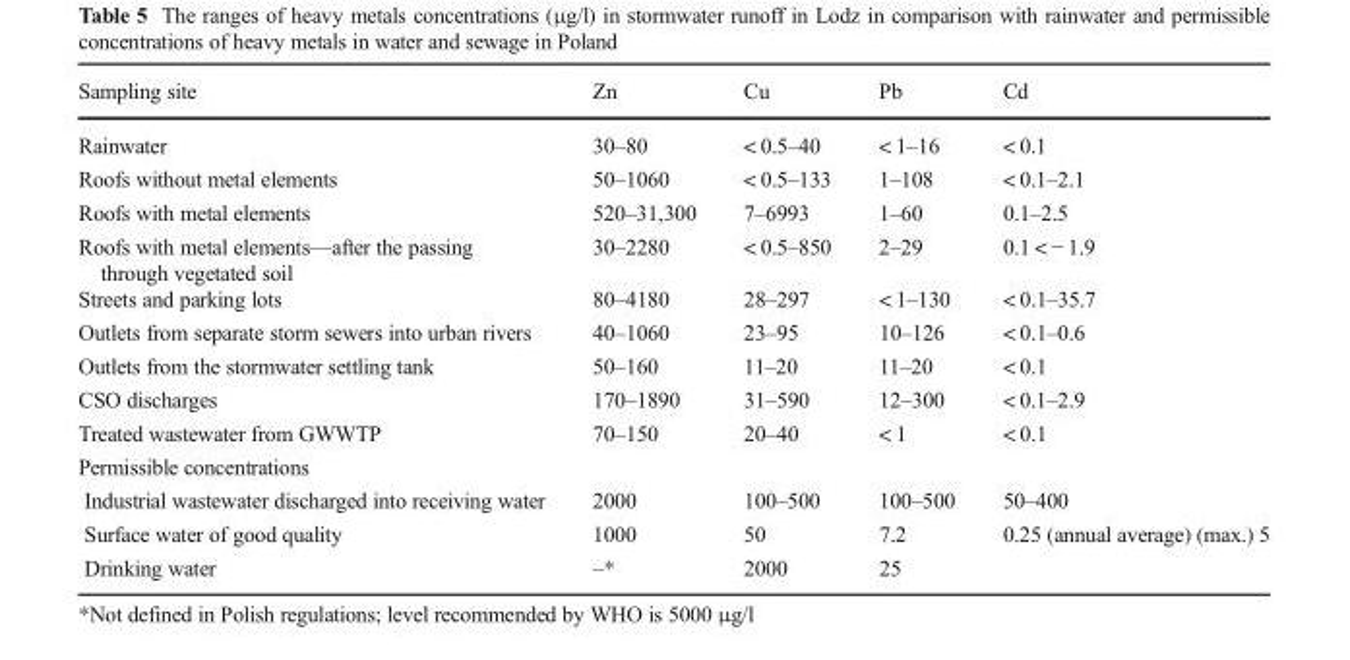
<table><thead><tr><td>Sampling site</td><td>Zn</td><td>Cu</td><td>Pb</td><td>Cd</td></tr></thead><tbody><tr><td>Rainwater</td><td>30–80</td><td>&lt; 0.5–40</td><td>&lt; 1–16</td><td>&lt; 0.1</td></tr><tr><td>Roofs without metal elements</td><td>50–1060</td><td>&lt; 0.5–133</td><td>1–108</td><td>&lt; 0.1–2.1</td></tr><tr><td>Roofs with metal elements</td><td>520–31,300</td><td>7–6993</td><td>1–60</td><td>0.1–2.5</td></tr><tr><td>Roofs with metal elements—after the passing through vegetated soil</td><td>30–2280</td><td>&lt; 0.5–850</td><td>2–29</td><td>0.1 &lt; − 1.9</td></tr><tr><td>Streets and parking lots</td><td>80–4180</td><td>28–297</td><td>&lt; 1–130</td><td>&lt; 0.1–35.7</td></tr><tr><td>Outlets from separate storm sewers into urban rivers</td><td>40–1060</td><td>23–95</td><td>10–126</td><td>&lt; 0.1–0.6</td></tr><tr><td>Outlets from the stormwater settling tank</td><td>50–160</td><td>11–20</td><td>11–20</td><td>&lt; 0.1</td></tr><tr><td>CSO discharges</td><td>170–1890</td><td>31–590</td><td>12–300</td><td>&lt; 0.1–2.9</td></tr><tr><td>Treated wastewater from GWWTP</td><td>70–150</td><td>20–40</td><td>&lt; 1</td><td>&lt; 0.1</td></tr><tr><td colspan="5">Permissible concentrations</td></tr><tr><td>Industrial wastewater discharged into receiving water</td><td>2000</td><td>100–500</td><td>100–500</td><td>50–400</td></tr><tr><td>Surface water of good quality</td><td>1000</td><td>50</td><td>7.2</td><td>0.25 (annual average) (max.) 5</td></tr><tr><td>Drinking water</td><td>–*</td><td>2000</td><td>25</td><td></td></tr></tbody></table>